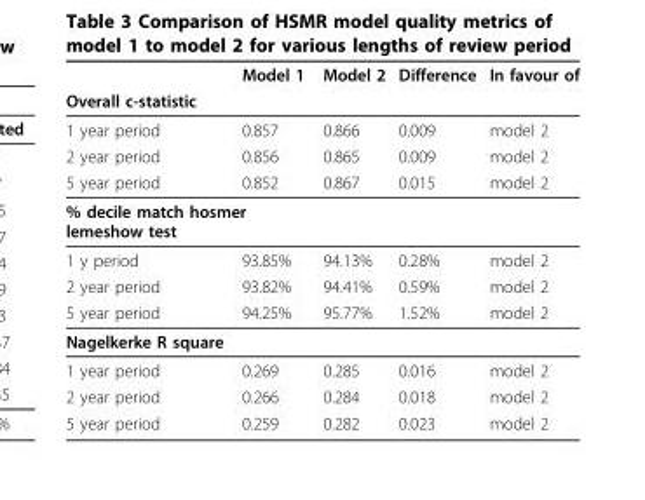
<table><thead><tr><td rowspan="2">Overall c-statistic</td><td rowspan="2">Model 1</td><td rowspan="2">Model 2</td><td rowspan="2">Difference</td><td rowspan="2">In favour of</td></tr><tr></tr></thead><tbody><tr><td>1 year period</td><td>0.857</td><td>0.866</td><td>0.009</td><td>model 2</td></tr><tr><td>2 year period</td><td>0.856</td><td>0.865</td><td>0.009</td><td>model 2</td></tr><tr><td>5 year period</td><td>0.852</td><td>0.867</td><td>0.015</td><td>model 2</td></tr><tr><td colspan="5">% decile match hosmer lemeshow test</td></tr><tr><td>1 y period</td><td>93.85%</td><td>94.13%</td><td>0.28%</td><td>model 2</td></tr><tr><td>2 year period</td><td>93.82%</td><td>94.41%</td><td>0.59%</td><td>model 2</td></tr><tr><td>5 year period</td><td>94.25%</td><td>95.77%</td><td>1.52%</td><td>model 2</td></tr><tr><td colspan="5">Nagelkerke R square</td></tr><tr><td>1 year period</td><td>0.269</td><td>0.285</td><td>0.016</td><td>model 2</td></tr><tr><td>2 year period</td><td>0.266</td><td>0.284</td><td>0.018</td><td>model 2</td></tr><tr><td>5 year period</td><td>0.259</td><td>0.282</td><td>0.023</td><td>model 2</td></tr></tbody></table>